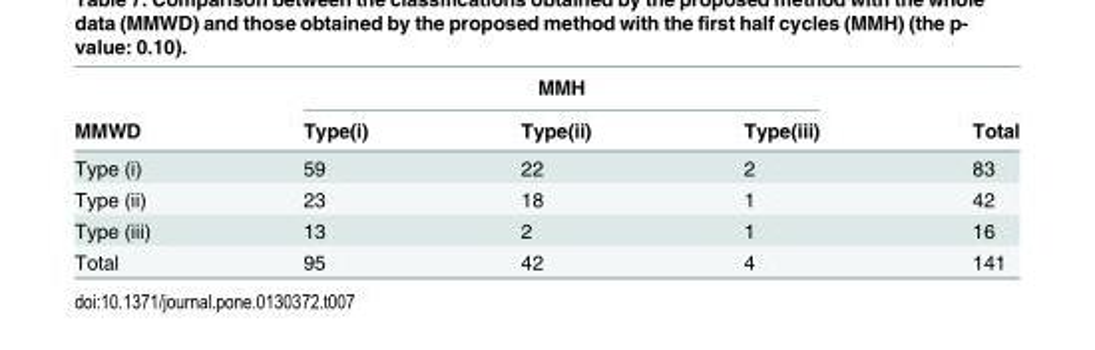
<table><thead><tr><td rowspan="2">MMWD</td><td colspan="3">MMH</td><td rowspan="2">Total</td></tr><tr><td>Type(i)</td><td>Type(ii)</td><td>Type(iii)</td></tr></thead><tbody><tr><td>Type (i)</td><td>59</td><td>22</td><td>2</td><td>83</td></tr><tr><td>Type (ii)</td><td>23</td><td>18</td><td>1</td><td>42</td></tr><tr><td>Type (iii)</td><td>13</td><td>2</td><td>1</td><td>16</td></tr><tr><td>Total</td><td>95</td><td>42</td><td>4</td><td>141</td></tr></tbody></table>